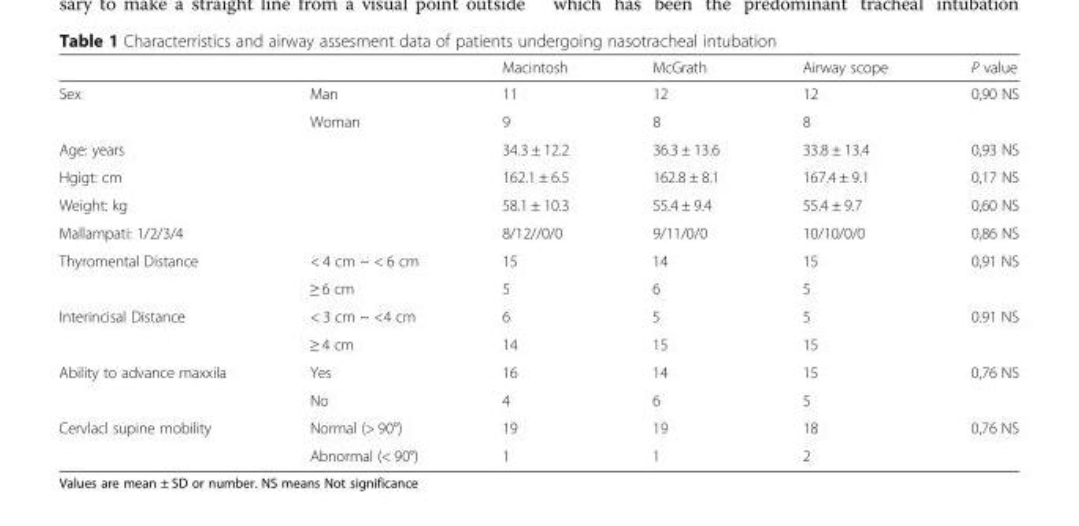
<table><thead><tr><td></td><td></td><td>Macintosh</td><td>McGrath</td><td>Airway scope</td><td>P value</td></tr></thead><tbody><tr><td rowspan="2">Sex</td><td>Man</td><td>11</td><td>12</td><td>12</td><td rowspan="2">0,90 NS</td></tr><tr><td>Woman</td><td>9</td><td>8</td><td>8</td></tr><tr><td colspan="2">Age: years</td><td>34.3 ± 12.2</td><td>36.3 ± 13.6</td><td>33.8 ± 13.4</td><td>0,93 NS</td></tr><tr><td colspan="2">Hgigt: cm</td><td>162.1 ± 6.5</td><td>162.8 ± 8.1</td><td>167.4 ± 9.1</td><td>0,17 NS</td></tr><tr><td colspan="2">Weight: kg</td><td>58.1 ± 10.3</td><td>55.4 ± 9.4</td><td>55.4 ± 9.7</td><td>0,60 NS</td></tr><tr><td colspan="2">Mallampati: 1/2/3/4</td><td>8/12//0/0</td><td>9/11/0/0</td><td>10/10/0/0</td><td>0,86 NS</td></tr><tr><td rowspan="2">Thyromental Distance</td><td>&lt; 4 cm ~ &lt; 6 cm</td><td>15</td><td>14</td><td>15</td><td rowspan="2">0,91 NS</td></tr><tr><td>≥ 6 cm</td><td>5</td><td>6</td><td>5</td></tr><tr><td rowspan="2">Interincisal Distance</td><td>&lt; 3 cm ~ &lt;4 cm</td><td>6</td><td>5</td><td>5</td><td rowspan="2">0.91 NS</td></tr><tr><td>≥ 4 cm</td><td>14</td><td>15</td><td>15</td></tr><tr><td rowspan="2">Ability to advance maxxila</td><td>Yes</td><td>16</td><td>14</td><td>15</td><td rowspan="2">0,76 NS</td></tr><tr><td>No</td><td>4</td><td>6</td><td>5</td></tr><tr><td rowspan="2">Cervlacl supine mobility</td><td>Normal (&gt; 90°)</td><td>19</td><td>19</td><td>18</td><td rowspan="2">0,76 NS</td></tr><tr><td>Abnormal (&lt; 90°)</td><td>1</td><td>1</td><td>2</td></tr></tbody></table>